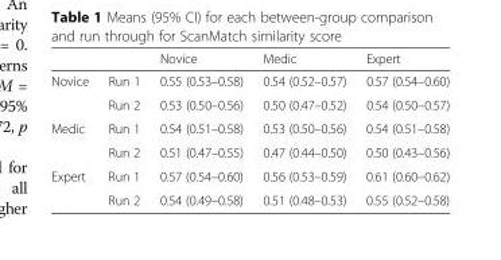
<table><thead><tr><td></td><td></td><td>Novice</td><td>Medic</td><td>Expert</td></tr></thead><tbody><tr><td rowspan="2">Novice</td><td>Run 1</td><td>0.55 (0.53–0.58)</td><td>0.54 (0.52–0.57)</td><td>0.57 (0.54–0.60)</td></tr><tr><td>Run 2</td><td>0.53 (0.50–0.56)</td><td>0.50 (0.47–0.52)</td><td>0.54 (0.50–0.57)</td></tr><tr><td rowspan="2">Medic</td><td>Run 1</td><td>0.54 (0.51–0.58)</td><td>0.53 (0.50–0.56)</td><td>0.54 (0.51–0.58)</td></tr><tr><td>Run 2</td><td>0.51 (0.47–0.55)</td><td>0.47 (0.44–0.50)</td><td>0.50 (0.43–0.56)</td></tr><tr><td rowspan="2">Expert</td><td>Run 1</td><td>0.57 (0.54–0.60)</td><td>0.56 (0.53–0.59)</td><td>0.61 (0.60–0.62)</td></tr><tr><td>Run 2</td><td>0.54 (0.49–0.58)</td><td>0.51 (0.48–0.53)</td><td>0.55 (0.52–0.58)</td></tr></tbody></table>